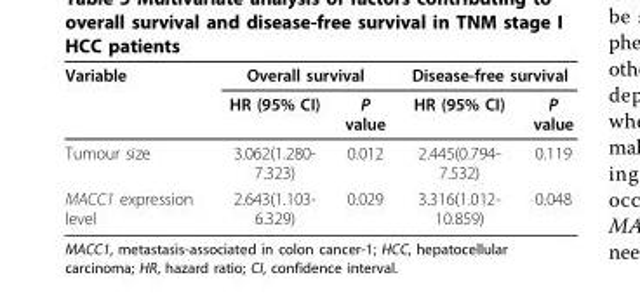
<table><thead><tr><td rowspan="2">Variable</td><td colspan="2">Overall survival</td><td colspan="2">Disease-free survival</td></tr><tr><td>HR (95% CI)</td><td>P value</td><td>HR (95% CI)</td><td>P value</td></tr></thead><tbody><tr><td>Tumour size</td><td>3.062(1.280- 7.323)</td><td>0.012</td><td>2.445(0.794- 7.532)</td><td>0.119</td></tr><tr><td>MACC1 expression level</td><td>2.643(1.103- 6.329)</td><td>0.029</td><td>3.316(1.012- 10.859)</td><td>0.048</td></tr></tbody></table>